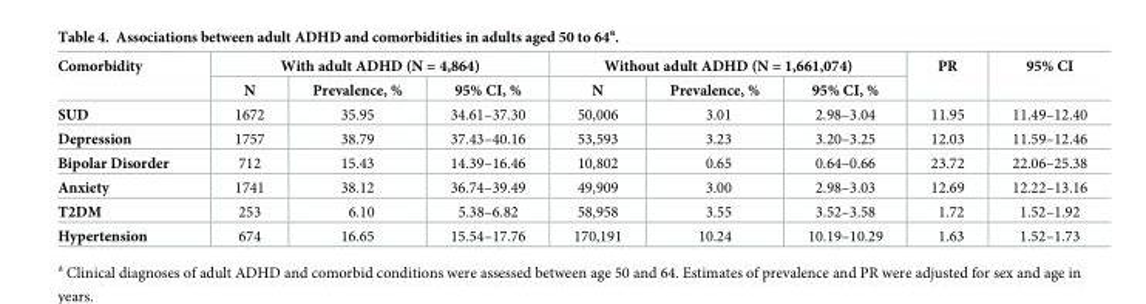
<table><thead><tr><td rowspan="2">Comorbidity</td><td colspan="3">With adult ADHD (N = 4,864)</td><td colspan="3">Without adult ADHD (N = 1,661,074)</td><td rowspan="2">PR</td><td rowspan="2">95% CI</td></tr><tr><td>N</td><td>Prevalence, %</td><td>95% CI, %</td><td>N</td><td>Prevalence, %</td><td>95% CI, %</td></tr></thead><tbody><tr><td>SUD</td><td>1672</td><td>35.95</td><td>34.61–37.30</td><td>50,006</td><td>3.01</td><td>2.98–3.04</td><td>11.95</td><td>11.49–12.40</td></tr><tr><td>Depression</td><td>1757</td><td>38.79</td><td>37.43–40.16</td><td>53,593</td><td>3.23</td><td>3.20–3.25</td><td>12.03</td><td>11.59–12.46</td></tr><tr><td>Bipolar Disorder</td><td>712</td><td>15.43</td><td>14.39–16.46</td><td>10,802</td><td>0.65</td><td>0.64–0.66</td><td>23.72</td><td>22.06–25.38</td></tr><tr><td>Anxiety</td><td>1741</td><td>38.12</td><td>36.74–39.49</td><td>49,909</td><td>3.00</td><td>2.98–3.03</td><td>12.69</td><td>12.22–13.16</td></tr><tr><td>T2DM</td><td>253</td><td>6.10</td><td>5.38–6.82</td><td>58,958</td><td>3.55</td><td>3.52–3.58</td><td>1.72</td><td>1.52–1.92</td></tr><tr><td>Hypertension</td><td>674</td><td>16.65</td><td>15.54–17.76</td><td>170,191</td><td>10.24</td><td>10.19–10.29</td><td>1.63</td><td>1.52–1.73</td></tr></tbody></table>